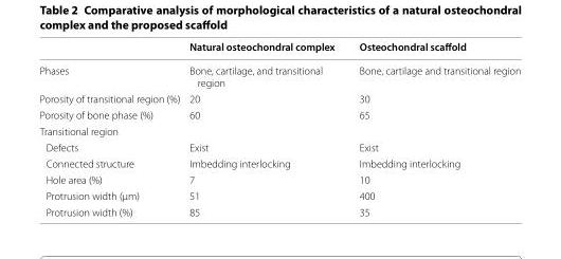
<table><thead><tr><td></td><td>Natural osteochondral complex</td><td>Osteochondral scaffold</td></tr></thead><tbody><tr><td>Phases</td><td>Bone, cartilage, and transitional region</td><td>Bone, cartilage and transitional region</td></tr><tr><td>Porosity of transitional region (%)</td><td>20</td><td>30</td></tr><tr><td>Porosity of bone phase (%)</td><td>60</td><td>65</td></tr><tr><td colspan="3">Transitional region</td></tr><tr><td>Defects</td><td>Exist</td><td>Exist</td></tr><tr><td>Connected structure</td><td>Imbedding interlocking</td><td>Imbedding interlocking</td></tr><tr><td>Hole area (%)</td><td>7</td><td>10</td></tr><tr><td>Protrusion width (μm)</td><td>51</td><td>400</td></tr><tr><td>Protrusion width (%)</td><td>85</td><td>35</td></tr></tbody></table>